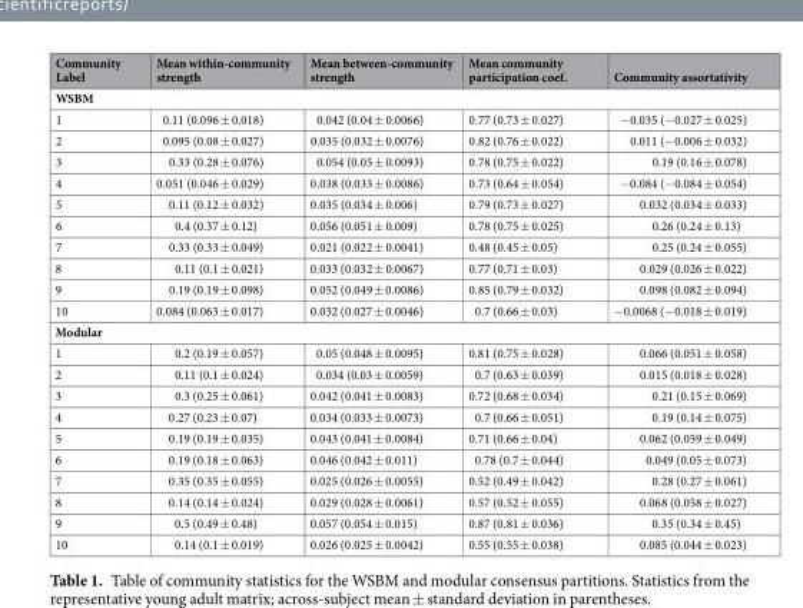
<table><thead><tr><td>Community Label</td><td>Mean within-community strength</td><td>Mean between-community strength</td><td>Mean community participation coef.</td><td>Community assortativity</td></tr></thead><tbody><tr><td colspan="5">WSBM</td></tr><tr><td>1</td><td>0.11 (0.096 ± 0.018)</td><td>0.042 (0.04 ± 0.0066)</td><td>0.77 (0.73 ± 0.027)</td><td>−0.035 (−0.027 ± 0.025)</td></tr><tr><td>2</td><td>0.095 (0.08 ± 0.027)</td><td>0.035 (0.032 ± 0.0076)</td><td>0.82 (0.76 ± 0.022)</td><td>0.011 (−0.006 ± 0.032)</td></tr><tr><td>3</td><td>0.33 (0.28 ± 0.076)</td><td>0.054 (0.05 ± 0.0093)</td><td>0.78 (0.75 ± 0.022)</td><td>0.19 (0.16 ± 0.078)</td></tr><tr><td>4</td><td>0.051 (0.046 ± 0.029)</td><td>0.038 (0.033 ± 0.0086)</td><td>0.73 (0.64 ± 0.054)</td><td>−0.084 (−0.084 ± 0.054)</td></tr><tr><td>5</td><td>0.11 (0.12 ± 0.032)</td><td>0.035 (0.034 ± 0.006)</td><td>0.79 (0.73 ± 0.027)</td><td>0.032 (0.034 ± 0.033)</td></tr><tr><td>6</td><td>0.4 (0.37 ± 0.12)</td><td>0.056 (0.051 ± 0.009)</td><td>0.78 (0.75 ± 0.025)</td><td>0.26 (0.24 ± 0.13)</td></tr><tr><td>7</td><td>0.33 (0.33 ± 0.049)</td><td>0.021 (0.022 ± 0.0041)</td><td>0.48 (0.45 ± 0.05)</td><td>0.25 (0.24 ± 0.055)</td></tr><tr><td>8</td><td>0.11 (0.1 ± 0.021)</td><td>0.033 (0.032 ± 0.0067)</td><td>0.77 (0.71 ± 0.03)</td><td>0.029 (0.026 ± 0.022)</td></tr><tr><td>9</td><td>0.19 (0.19 ± 0.098)</td><td>0.052 (0.049 ± 0.0086)</td><td>0.85 (0.79 ± 0.032)</td><td>0.098 (0.082 ± 0.094)</td></tr><tr><td>10</td><td>0.084 (0.063 ± 0.017)</td><td>0.032 (0.027 ± 0.0046)</td><td>0.7 (0.66 ± 0.03)</td><td>−0.0068 (−0.018 ± 0.019)</td></tr><tr><td colspan="5">Modular</td></tr><tr><td>1</td><td>0.2 (0.19 ± 0.057)</td><td>0.05 (0.048 ± 0.0095)</td><td>0.81 (0.75 ± 0.028)</td><td>0.066 (0.051 ± 0.058)</td></tr><tr><td>2</td><td>0.11 (0.1 ± 0.024)</td><td>0.034 (0.03 ± 0.0059)</td><td>0.7 (0.63 ± 0.039)</td><td>0.015 (0.018 ± 0.028)</td></tr><tr><td>3</td><td>0.3 (0.25 ± 0.061)</td><td>0.042 (0.041 ± 0.0083)</td><td>0.72 (0.68 ± 0.034)</td><td>0.21 (0.15 ± 0.069)</td></tr><tr><td>4</td><td>0.27 (0.23 ± 0.07)</td><td>0.034 (0.033 ± 0.0073)</td><td>0.7 (0.66 ± 0.051)</td><td>0.19 (0.14 ± 0.075)</td></tr><tr><td>5</td><td>0.19 (0.19 ± 0.035)</td><td>0.043 (0.041 ± 0.0084)</td><td>0.71 (0.66 ± 0.04)</td><td>0.062 (0.059 ± 0.049)</td></tr><tr><td>6</td><td>0.19 (0.18 ± 0.063)</td><td>0.046 (0.042 ± 0.011)</td><td>0.78 (0.7 ± 0.044)</td><td>0.049 (0.05 ± 0.073)</td></tr><tr><td>7</td><td>0.35 (0.35 ± 0.055)</td><td>0.025 (0.026 ± 0.0055)</td><td>0.52 (0.49 ± 0.042)</td><td>0.28 (0.27 ± 0.061)</td></tr><tr><td>8</td><td>0.14 (0.14 ± 0.024)</td><td>0.029 (0.028 ± 0.0061)</td><td>0.57 (0.52 ± 0.055)</td><td>0.068 (0.058 ± 0.027)</td></tr><tr><td>9</td><td>0.5 (0.49 ± 0.48)</td><td>0.057 (0.054 ± 0.015)</td><td>0.87 (0.81 ± 0.036)</td><td>0.35 (0.34 ± 0.45)</td></tr><tr><td>10</td><td>0.14 (0.1 ± 0.019)</td><td>0.026 (0.025 ± 0.0042)</td><td>0.55 (0.55 ± 0.038)</td><td>0.085 (0.044 ± 0.023)</td></tr></tbody></table>